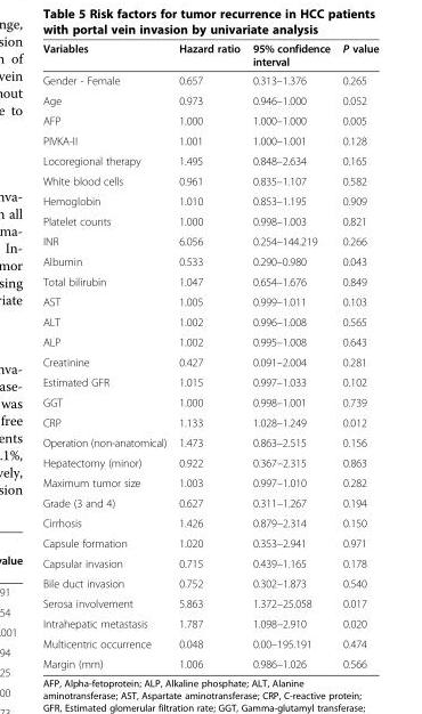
<table><thead><tr><td>Variables</td><td>Hazard ratio</td><td>95% confidence interval</td><td>P value</td></tr></thead><tbody><tr><td>Gender - Female</td><td>0.657</td><td>0.313–1.376</td><td>0.265</td></tr><tr><td>Age</td><td>0.973</td><td>0.946–1.000</td><td>0.052</td></tr><tr><td>AFP</td><td>1.000</td><td>1.000–1.000</td><td>0.005</td></tr><tr><td>PIVKA-II</td><td>1.001</td><td>1.000–1.001</td><td>0.128</td></tr><tr><td>Locoregional therapy</td><td>1.495</td><td>0.848–2.634</td><td>0.165</td></tr><tr><td>White blood cells</td><td>0.961</td><td>0.835–1.107</td><td>0.582</td></tr><tr><td>Hemoglobin</td><td>1.010</td><td>0.853–1.195</td><td>0.909</td></tr><tr><td>Platelet counts</td><td>1.000</td><td>0.998–1.003</td><td>0.821</td></tr><tr><td>INR</td><td>6.056</td><td>0.254–144.219</td><td>0.266</td></tr><tr><td>Albumin</td><td>0.533</td><td>0.290–0.980</td><td>0.043</td></tr><tr><td>Total bilirubin</td><td>1.047</td><td>0.654–1.676</td><td>0.849</td></tr><tr><td>AST</td><td>1.005</td><td>0.999–1.011</td><td>0.103</td></tr><tr><td>ALT</td><td>1.002</td><td>0.996–1.008</td><td>0.565</td></tr><tr><td>ALP</td><td>1.002</td><td>0.995–1.008</td><td>0.643</td></tr><tr><td>Creatinine</td><td>0.427</td><td>0.091–2.004</td><td>0.281</td></tr><tr><td>Estimated GFR</td><td>1.015</td><td>0.997–1.033</td><td>0.102</td></tr><tr><td>GGT</td><td>1.000</td><td>0.998–1.001</td><td>0.739</td></tr><tr><td>CRP</td><td>1.133</td><td>1.028–1.249</td><td>0.012</td></tr><tr><td>Operation (non-anatomical)</td><td>1.473</td><td>0.863–2.515</td><td>0.156</td></tr><tr><td>Hepatectomy (minor)</td><td>0.922</td><td>0.367–2.315</td><td>0.863</td></tr><tr><td>Maximum tumor size</td><td>1.003</td><td>0.997–1.010</td><td>0.282</td></tr><tr><td>Grade (3 and 4)</td><td>0.627</td><td>0.311–1.267</td><td>0.194</td></tr><tr><td>Cirrhosis</td><td>1.426</td><td>0.879–2.314</td><td>0.150</td></tr><tr><td>Capsule formation</td><td>1.020</td><td>0.353–2.941</td><td>0.971</td></tr><tr><td>Capsular invasion</td><td>0.715</td><td>0.439–1.165</td><td>0.178</td></tr><tr><td>Bile duct invasion</td><td>0.752</td><td>0.302–1.873</td><td>0.540</td></tr><tr><td>Serosa involvement</td><td>5.863</td><td>1.372–25.058</td><td>0.017</td></tr><tr><td>Intrahepatic metastasis</td><td>1.787</td><td>1.098–2.910</td><td>0.020</td></tr><tr><td>Multicentric occurrence</td><td>0.048</td><td>0.00–195.191</td><td>0.474</td></tr><tr><td>Margin (mm)</td><td>1.006</td><td>0.986–1.026</td><td>0.566</td></tr></tbody></table>